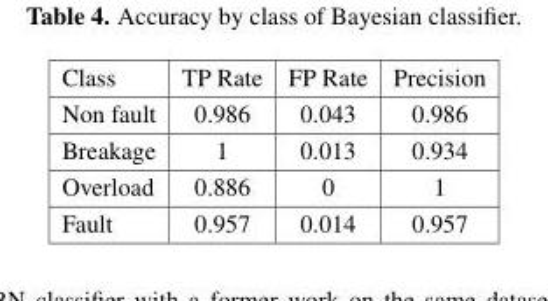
<table><thead><tr><td>Class</td><td>TP Rate</td><td>FP Rate</td><td>Precision</td></tr></thead><tbody><tr><td>Non fault</td><td>0.986</td><td>0.043</td><td>0.986</td></tr><tr><td>Breakage</td><td>1</td><td>0.013</td><td>0.934</td></tr><tr><td>Overload</td><td>0.886</td><td>0</td><td>1</td></tr><tr><td>Fault</td><td>0.957</td><td>0.014</td><td>0.957</td></tr></tbody></table>